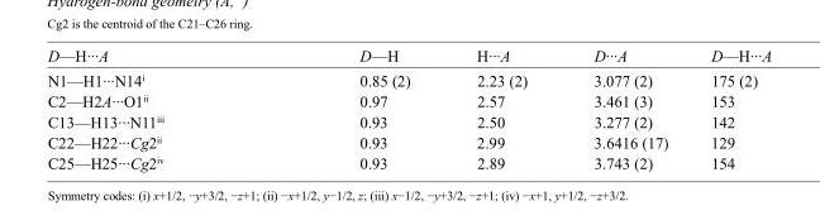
<table><tbody><tr><td>D—H···A</td><td>D—H</td><td>H···A</td><td>D···A</td><td>D—H···A</td></tr><tr><td>N1—H1···N14<sup>i</sup></td><td>0.85 (2)</td><td>2.23 (2)</td><td>3.077 (2)</td><td>175 (2)</td></tr><tr><td>C2—H2A···O1<sup>ii</sup></td><td>0.97</td><td>2.57</td><td>3.461 (3)</td><td>153</td></tr><tr><td>C13—H13···N11<sup>iii</sup></td><td>0.93</td><td>2.50</td><td>3.277 (2)</td><td>142</td></tr><tr><td>C22—H22···Cg2<sup>ii</sup></td><td>0.93</td><td>2.99</td><td>3.6416 (17)</td><td>129</td></tr><tr><td>C25—H25···Cg2<sup>iv</sup></td><td>0.93</td><td>2.89</td><td>3.743 (2)</td><td>154</td></tr></tbody></table>